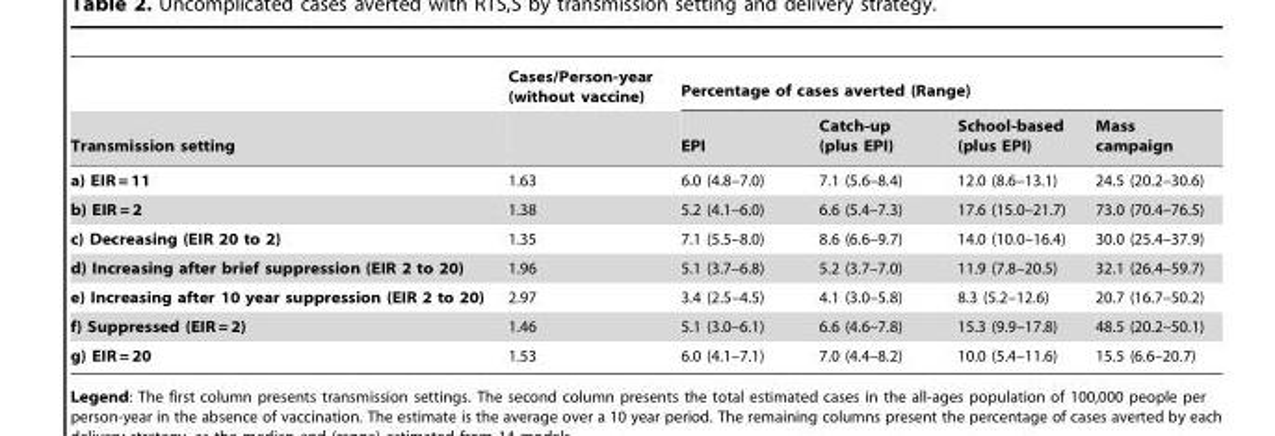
<table><thead><tr><td rowspan="2">Transmission setting</td><td rowspan="2">Cases/Person-year (without vaccine)</td><td colspan="4">Percentage of cases averted (Range)</td></tr><tr><td>EPI</td><td>Catch-up (plus EPI)</td><td>School-based (plus EPI)</td><td>Mass campaign</td></tr></thead><tbody><tr><td>a) EIR = 11</td><td>1.63</td><td>6.0 (4.8–7.0)</td><td>7.1 (5.6–8.4)</td><td>12.0 (8.6–13.1)</td><td>24.5 (20.2–30.6)</td></tr><tr><td>b) EIR = 2</td><td>1.38</td><td>5.2 (4.1–6.0)</td><td>6.6 (5.4–7.3)</td><td>17.6 (15.0–21.7)</td><td>73.0 (70.4–76.5)</td></tr><tr><td>c) Decreasing (EIR 20 to 2)</td><td>1.35</td><td>7.1 (5.5–8.0)</td><td>8.6 (6.6–9.7)</td><td>14.0 (10.0–16.4)</td><td>30.0 (25.4–37.9)</td></tr><tr><td>d) Increasing after brief suppression (EIR 2 to 20)</td><td>1.96</td><td>5.1 (3.7–6.8)</td><td>5.2 (3.7–7.0)</td><td>11.9 (7.8–20.5)</td><td>32.1 (26.4–59.7)</td></tr><tr><td>e) Increasing after 10 year suppression (EIR 2 to 20)</td><td>2.97</td><td>3.4 (2.5–4.5)</td><td>4.1 (3.0–5.8)</td><td>8.3 (5.2–12.6)</td><td>20.7 (16.7–50.2)</td></tr><tr><td>f) Suppressed (EIR = 2)</td><td>1.46</td><td>5.1 (3.0–6.1)</td><td>6.6 (4.6–7.8)</td><td>15.3 (9.9–17.8)</td><td>48.5 (20.2–50.1)</td></tr><tr><td>g) EIR = 20</td><td>1.53</td><td>6.0 (4.1–7.1)</td><td>7.0 (4.4–8.2)</td><td>10.0 (5.4–11.6)</td><td>15.5 (6.6–20.7)</td></tr></tbody></table>